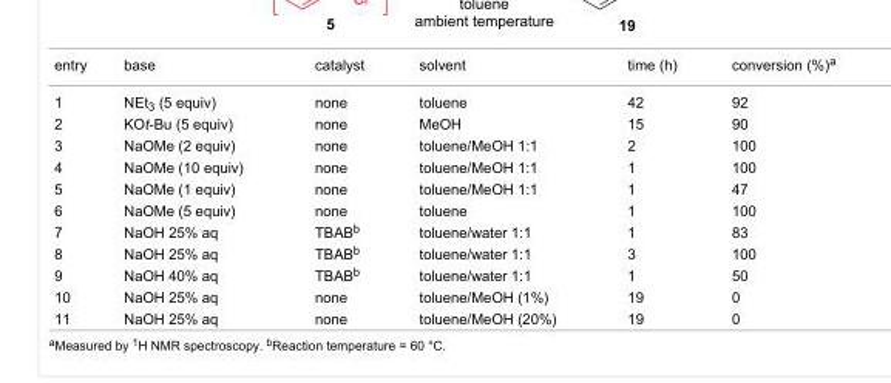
<table><tbody><tr><td>entry</td><td>base</td><td>catalyst</td><td>solvent</td><td>time (h)</td><td>conversion (%)<sup>a</sup></td></tr><tr><td>1</td><td>NEt<sub>3</sub> (5 equiv)</td><td>none</td><td>toluene</td><td>42</td><td>92</td></tr><tr><td>2</td><td>KOt-Bu (5 equiv)</td><td>none</td><td>MeOH</td><td>15</td><td>90</td></tr><tr><td>3</td><td>NaOMe (2 equiv)</td><td>none</td><td>toluene/MeOH 1:1</td><td>2</td><td>100</td></tr><tr><td>4</td><td>NaOMe (10 equiv)</td><td>none</td><td>toluene/MeOH 1:1</td><td>1</td><td>100</td></tr><tr><td>5</td><td>NaOMe (1 equiv)</td><td>none</td><td>toluene/MeOH 1:1</td><td>1</td><td>47</td></tr><tr><td>6</td><td>NaOMe (5 equiv)</td><td>none</td><td>toluene</td><td>1</td><td>100</td></tr><tr><td>7</td><td>NaOH 25% aq</td><td>TBAB<sup>b</sup></td><td>toluene/water 1:1</td><td>1</td><td>83</td></tr><tr><td>8</td><td>NaOH 25% aq</td><td>TBAB<sup>b</sup></td><td>toluene/water 1:1</td><td>3</td><td>100</td></tr><tr><td>9</td><td>NaOH 40% aq</td><td>TBAB<sup>b</sup></td><td>toluene/water 1:1</td><td>1</td><td>50</td></tr><tr><td>10</td><td>NaOH 25% aq</td><td>none</td><td>toluene/MeOH (1%)</td><td>19</td><td>0</td></tr><tr><td>11</td><td>NaOH 25% aq</td><td>none</td><td>toluene/MeOH (20%)</td><td>19</td><td>0</td></tr></tbody></table>